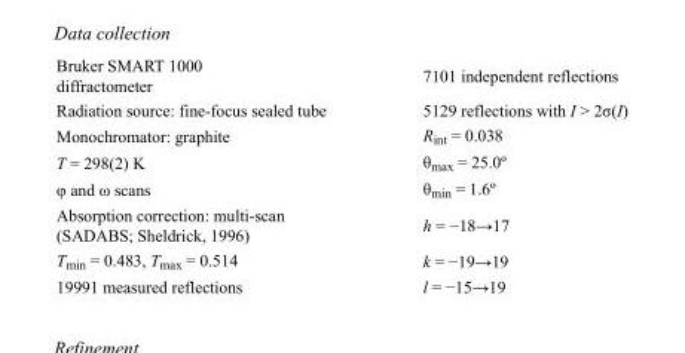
<table><tbody><tr><td>Bruker SMART 1000 diffractometer</td><td>7101 independent reflections</td></tr><tr><td>Radiation source: fine-focus sealed tube</td><td>5129 reflections with I &gt; 2σ(I)</td></tr><tr><td>Monochromator: graphite</td><td>R<sub>int</sub> = 0.038</td></tr><tr><td>T = 298(2) K</td><td>θ<sub>max</sub> = 25.0º</td></tr><tr><td>φ and ω scans</td><td>θ<sub>min</sub> = 1.6º</td></tr><tr><td>Absorption correction: multi-scan (SADABS; Sheldrick, 1996)</td><td>h = −18→17</td></tr><tr><td>T<sub>min</sub> = 0.483, T<sub>max</sub> = 0.514</td><td>k = −19→19</td></tr><tr><td>19991 measured reflections</td><td>l = −15→19</td></tr></tbody></table>